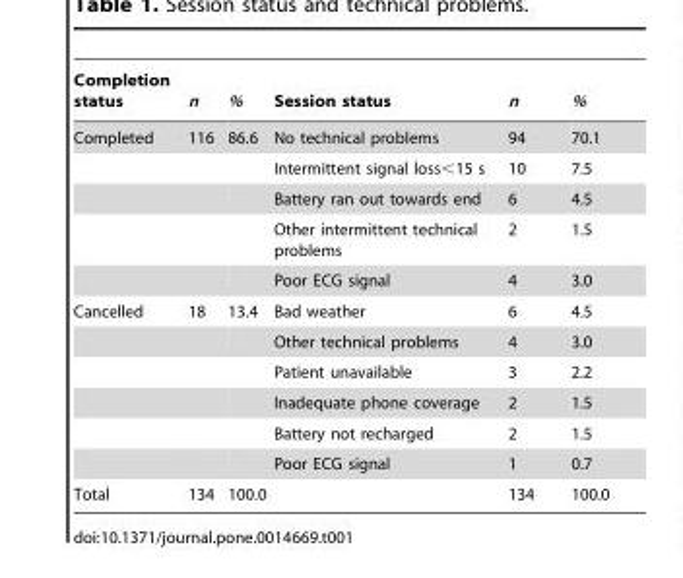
<table><thead><tr><td>Completion status</td><td>n</td><td>%</td><td>Session status</td><td>n</td><td>%</td></tr></thead><tbody><tr><td rowspan="5">Completed</td><td>116</td><td>86.6</td><td>No technical problems</td><td>94</td><td>70.1</td></tr><tr><td></td><td></td><td>Intermittent signal loss&lt;15 s</td><td>10</td><td>7.5</td></tr><tr><td></td><td></td><td>Battery ran out towards end</td><td>6</td><td>4.5</td></tr><tr><td></td><td></td><td>Other intermittent technical problems</td><td>2</td><td>1.5</td></tr><tr><td></td><td></td><td>Poor ECG signal</td><td>4</td><td>3.0</td></tr><tr><td rowspan="6">Cancelled</td><td>18</td><td>13.4</td><td>Bad weather</td><td>6</td><td>4.5</td></tr><tr><td></td><td></td><td>Other technical problems</td><td>4</td><td>3.0</td></tr><tr><td></td><td></td><td>Patient unavailable</td><td>3</td><td>2.2</td></tr><tr><td></td><td></td><td>Inadequate phone coverage</td><td>2</td><td>1.5</td></tr><tr><td></td><td></td><td>Battery not recharged</td><td>2</td><td>1.5</td></tr><tr><td></td><td></td><td>Poor ECG signal</td><td>1</td><td>0.7</td></tr><tr><td>Total</td><td>134</td><td>100.0</td><td></td><td>134</td><td>100.0</td></tr></tbody></table>